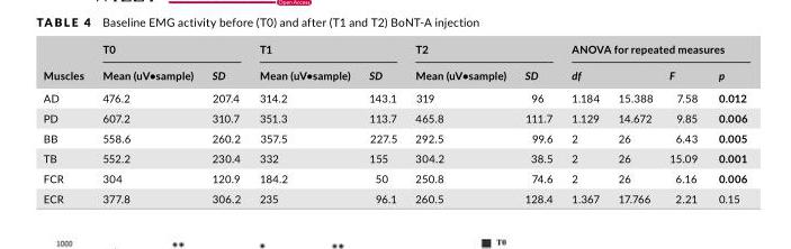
<table><thead><tr><td rowspan="2">Muscles</td><td colspan="2">T0</td><td colspan="2">T1</td><td colspan="2">T2</td><td colspan="4">ANOVA for repeated measures</td></tr><tr><td>Mean (uV•sample)</td><td>SD</td><td>Mean (uV•sample)</td><td>SD</td><td>Mean (uV•sample)</td><td>SD</td><td>df</td><td></td><td>F</td><td>p</td></tr></thead><tbody><tr><td>AD</td><td>476.2</td><td>207.4</td><td>314.2</td><td>143.1</td><td>319</td><td>96</td><td>1.184</td><td>15.388</td><td>7.58</td><td>0.012</td></tr><tr><td>PD</td><td>607.2</td><td>310.7</td><td>351.3</td><td>113.7</td><td>465.8</td><td>111.7</td><td>1.129</td><td>14.672</td><td>9.85</td><td>0.006</td></tr><tr><td>BB</td><td>558.6</td><td>260.2</td><td>357.5</td><td>227.5</td><td>292.5</td><td>99.6</td><td>2</td><td>26</td><td>6.43</td><td>0.005</td></tr><tr><td>TB</td><td>552.2</td><td>230.4</td><td>332</td><td>155</td><td>304.2</td><td>38.5</td><td>2</td><td>26</td><td>15.09</td><td>0.001</td></tr><tr><td>FCR</td><td>304</td><td>120.9</td><td>184.2</td><td>50</td><td>250.8</td><td>74.6</td><td>2</td><td>26</td><td>6.16</td><td>0.006</td></tr><tr><td>ECR</td><td>377.8</td><td>306.2</td><td>235</td><td>96.1</td><td>260.5</td><td>128.4</td><td>1.367</td><td>17.766</td><td>2.21</td><td>0.15</td></tr></tbody></table>